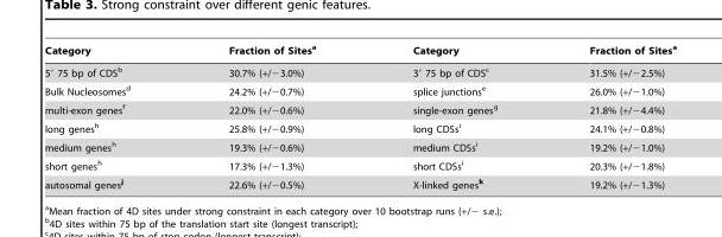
<table><thead><tr><td>Category</td><td>Fraction of Sites<sup>a</sup></td><td>Category</td><td>Fraction of Sites<sup>a</sup></td></tr></thead><tbody><tr><td>5′ 75 bp of CDS<sup>b</sup></td><td>30.7% (+/−3.0%)</td><td>3′ 75 bp of CDS<sup>c</sup></td><td>31.5% (+/−2.5%)</td></tr><tr><td>Bulk Nucleosomes<sup>d</sup></td><td>24.2% (+/−0.7%)</td><td>splice junctions<sup>e</sup></td><td>26.0% (+/−1.0%)</td></tr><tr><td>multi-exon genes<sup>f</sup></td><td>22.0% (+/−0.6%)</td><td>single-exon genes<sup>g</sup></td><td>21.8% (+/−4.4%)</td></tr><tr><td>long genes<sup>h</sup></td><td>25.8% (+/−0.9%)</td><td>long CDSs<sup>i</sup></td><td>24.1% (+/−0.8%)</td></tr><tr><td>medium genes<sup>h</sup></td><td>19.3% (+/−0.6%)</td><td>medium CDSs<sup>i</sup></td><td>19.2% (+/−1.0%)</td></tr><tr><td>short genes<sup>h</sup></td><td>17.3% (+/−1.3%)</td><td>short CDSs<sup>i</sup></td><td>20.3% (+/−1.8%)</td></tr><tr><td>autosomal genes<sup>j</sup></td><td>22.6% (+/−0.5%)</td><td>X-linked genes<sup>k</sup></td><td>19.2% (+/−1.3%)</td></tr></tbody></table>